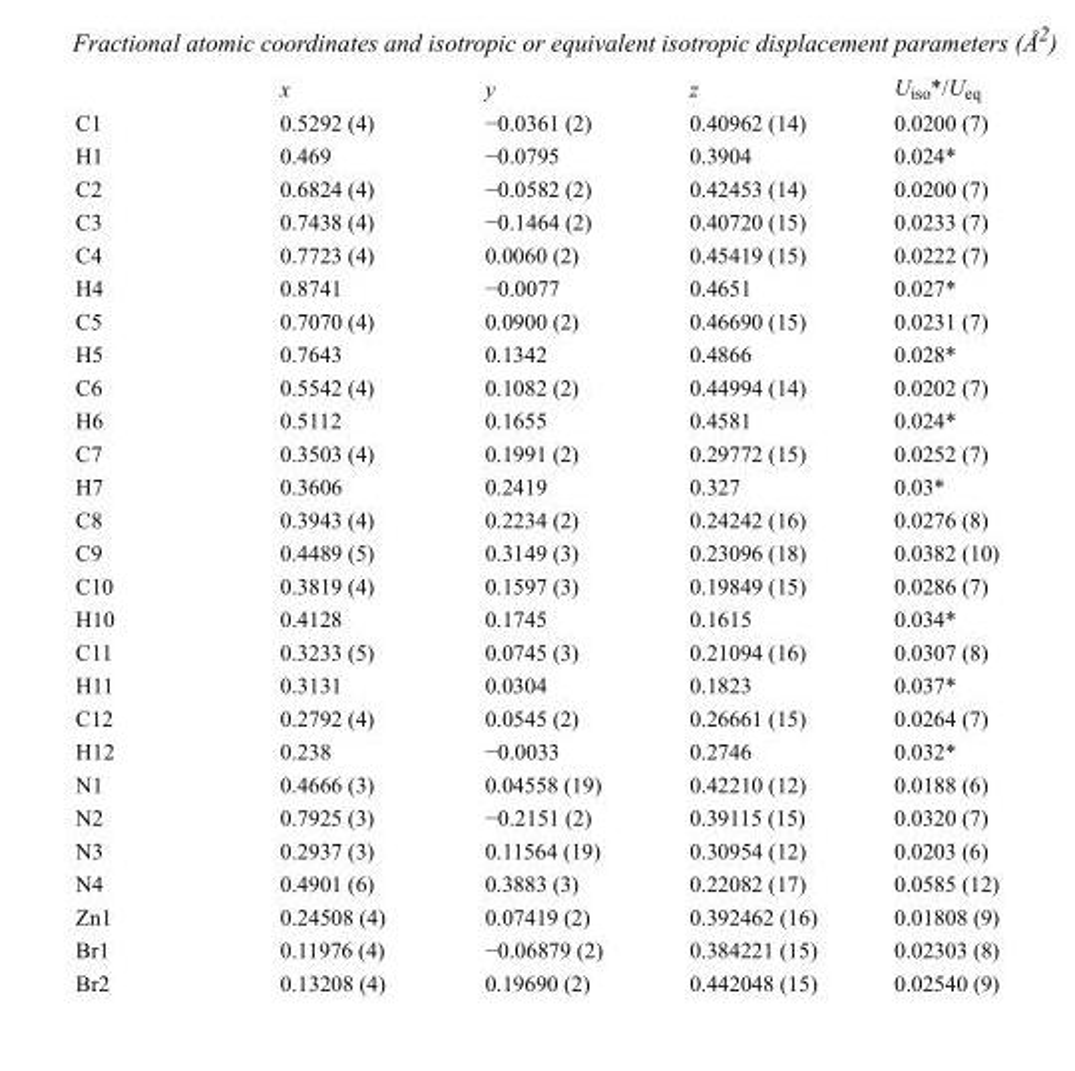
<table><thead><tr><td></td><td>x</td><td>y</td><td>z</td><td>U<sub>iso</sub>*/U<sub>eq</sub></td></tr></thead><tbody><tr><td>C1</td><td>0.5292 (4)</td><td>−0.0361 (2)</td><td>0.40962 (14)</td><td>0.0200 (7)</td></tr><tr><td>H1</td><td>0.469</td><td>−0.0795</td><td>0.3904</td><td>0.024*</td></tr><tr><td>C2</td><td>0.6824 (4)</td><td>−0.0582 (2)</td><td>0.42453 (14)</td><td>0.0200 (7)</td></tr><tr><td>C3</td><td>0.7438 (4)</td><td>−0.1464 (2)</td><td>0.40720 (15)</td><td>0.0233 (7)</td></tr><tr><td>C4</td><td>0.7723 (4)</td><td>0.0060 (2)</td><td>0.45419 (15)</td><td>0.0222 (7)</td></tr><tr><td>H4</td><td>0.8741</td><td>−0.0077</td><td>0.4651</td><td>0.027*</td></tr><tr><td>C5</td><td>0.7070 (4)</td><td>0.0900 (2)</td><td>0.46690 (15)</td><td>0.0231 (7)</td></tr><tr><td>H5</td><td>0.7643</td><td>0.1342</td><td>0.4866</td><td>0.028*</td></tr><tr><td>C6</td><td>0.5542 (4)</td><td>0.1082 (2)</td><td>0.44994 (14)</td><td>0.0202 (7)</td></tr><tr><td>H6</td><td>0.5112</td><td>0.1655</td><td>0.4581</td><td>0.024*</td></tr><tr><td>C7</td><td>0.3503 (4)</td><td>0.1991 (2)</td><td>0.29772 (15)</td><td>0.0252 (7)</td></tr><tr><td>H7</td><td>0.3606</td><td>0.2419</td><td>0.327</td><td>0.03*</td></tr><tr><td>C8</td><td>0.3943 (4)</td><td>0.2234 (2)</td><td>0.24242 (16)</td><td>0.0276 (8)</td></tr><tr><td>C9</td><td>0.4489 (5)</td><td>0.3149 (3)</td><td>0.23096 (18)</td><td>0.0382 (10)</td></tr><tr><td>C10</td><td>0.3819 (4)</td><td>0.1597 (3)</td><td>0.19849 (15)</td><td>0.0286 (7)</td></tr><tr><td>H10</td><td>0.4128</td><td>0.1745</td><td>0.1615</td><td>0.034*</td></tr><tr><td>C11</td><td>0.3233 (5)</td><td>0.0745 (3)</td><td>0.21094 (16)</td><td>0.0307 (8)</td></tr><tr><td>H11</td><td>0.3131</td><td>0.0304</td><td>0.1823</td><td>0.037*</td></tr><tr><td>C12</td><td>0.2792 (4)</td><td>0.0545 (2)</td><td>0.26661 (15)</td><td>0.0264 (7)</td></tr><tr><td>H12</td><td>0.238</td><td>−0.0033</td><td>0.2746</td><td>0.032*</td></tr><tr><td>N1</td><td>0.4666 (3)</td><td>0.04558 (19)</td><td>0.42210 (12)</td><td>0.0188 (6)</td></tr><tr><td>N2</td><td>0.7925 (3)</td><td>−0.2151 (2)</td><td>0.39115 (15)</td><td>0.0320 (7)</td></tr><tr><td>N3</td><td>0.2937 (3)</td><td>0.11564 (19)</td><td>0.30954 (12)</td><td>0.0203 (6)</td></tr><tr><td>N4</td><td>0.4901 (6)</td><td>0.3883 (3)</td><td>0.22082 (17)</td><td>0.0585 (12)</td></tr><tr><td>Zn1</td><td>0.24508 (4)</td><td>0.07419 (2)</td><td>0.392462 (16)</td><td>0.01808 (9)</td></tr><tr><td>Br1</td><td>0.11976 (4)</td><td>−0.06879 (2)</td><td>0.384221 (15)</td><td>0.02303 (8)</td></tr><tr><td>Br2</td><td>0.13208 (4)</td><td>0.19690 (2)</td><td>0.442048 (15)</td><td>0.02540 (9)</td></tr></tbody></table>